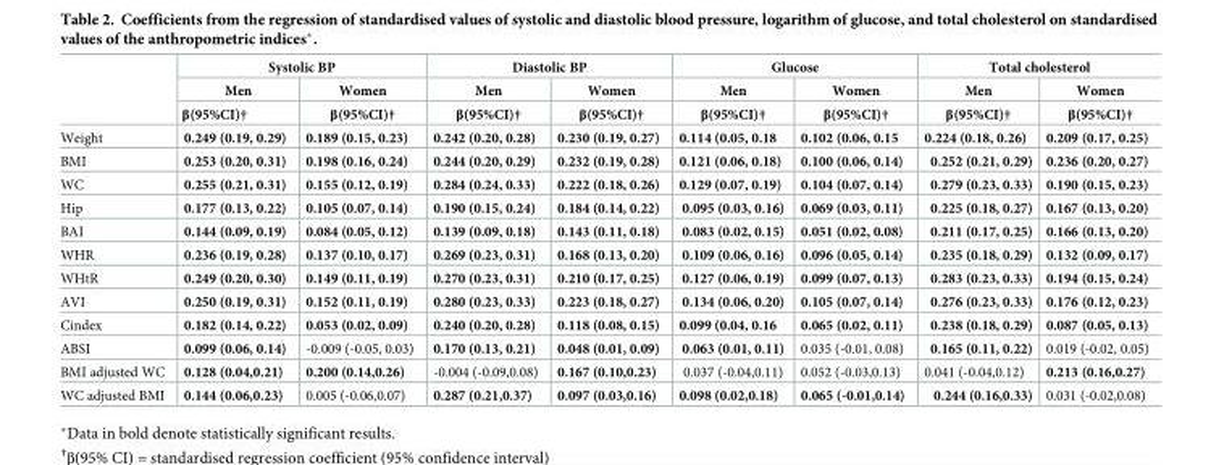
<table><thead><tr><td rowspan="3"></td><td colspan="2">Systolic BP</td><td colspan="2">Diastolic BP</td><td colspan="2">Glucose</td><td colspan="2">Total cholesterol</td></tr><tr><td rowspan="2">Men β(95%CI)†</td><td rowspan="2">Women β(95%CI)†</td><td rowspan="2">Men β(95%CI)†</td><td rowspan="2">Women β(95%CI)†</td><td rowspan="2">Men β(95%CI)†</td><td rowspan="2">Women β(95%CI)†</td><td rowspan="2">Men β(95%CI)†</td><td rowspan="2">Women β(95%CI)†</td></tr><tr></tr></thead><tbody><tr><td>Weight</td><td>0.249 (0.19, 0.29)</td><td>0.189 (0.15, 0.23)</td><td>0.242 (0.20, 0.28)</td><td>0.230 (0.19, 0.27)</td><td>0.114 (0.05, 0.18</td><td>0.102 (0.06, 0.15</td><td>0.224 (0.18, 0.26)</td><td>0.209 (0.17, 0.25)</td></tr><tr><td>BMI</td><td>0.253 (0.20, 0.31)</td><td>0.198 (0.16, 0.24)</td><td>0.244 (0.20, 0.29)</td><td>0.232 (0.19, 0.28)</td><td>0.121 (0.06, 0.18)</td><td>0.100 (0.06, 0.14)</td><td>0.252 (0.21, 0.29)</td><td>0.236 (0.20, 0.27)</td></tr><tr><td>WC</td><td>0.255 (0.21, 0.31)</td><td>0.155 (0.12, 0.19)</td><td>0.284 (0.24, 0.33)</td><td>0.222 (0.18, 0.26)</td><td>0.129 (0.07, 0.19)</td><td>0.104 (0.07, 0.14)</td><td>0.279 (0.23, 0.33)</td><td>0.190 (0.15, 0.23)</td></tr><tr><td>Hip</td><td>0.177 (0.13, 0.22)</td><td>0.105 (0.07, 0.14)</td><td>0.190 (0.15, 0.24)</td><td>0.184 (0.14, 0.22)</td><td>0.095 (0.03, 0.16)</td><td>0.069 (0.03, 0.11)</td><td>0.225 (0.18, 0.27)</td><td>0.167 (0.13, 0.20)</td></tr><tr><td>BAI</td><td>0.144 (0.09, 0.19)</td><td>0.084 (0.05, 0.12)</td><td>0.139 (0.09, 0.18)</td><td>0.143 (0.11, 0.18)</td><td>0.083 (0.02, 0.15)</td><td>0.051 (0.02, 0.08)</td><td>0.211 (0.17, 0.25)</td><td>0.166 (0.13, 0.20)</td></tr><tr><td>WHR</td><td>0.236 (0.19, 0.28)</td><td>0.137 (0.10, 0.17)</td><td>0.269 (0.23, 0.31)</td><td>0.168 (0.13, 0.20)</td><td>0.109 (0.06, 0.16)</td><td>0.096 (0.05, 0.14)</td><td>0.235 (0.18, 0.29)</td><td>0.132 (0.09, 0.17)</td></tr><tr><td>WHtR</td><td>0.249 (0.20, 0.30)</td><td>0.149 (0.11, 0.19)</td><td>0.270 (0.23, 0.31)</td><td>0.210 (0.17, 0.25)</td><td>0.127 (0.06, 0.19)</td><td>0.099 (0.07, 0.13)</td><td>0.283 (0.23, 0.33)</td><td>0.194 (0.15, 0.24)</td></tr><tr><td>AVI</td><td>0.250 (0.19, 0.31)</td><td>0.152 (0.11, 0.19)</td><td>0.280 (0.23, 0.33)</td><td>0.223 (0.18, 0.27)</td><td>0.134 (0.06, 0.20)</td><td>0.105 (0.07, 0.14)</td><td>0.276 (0.23, 0.33)</td><td>0.176 (0.12, 0.23)</td></tr><tr><td>Cindex</td><td>0.182 (0.14, 0.22)</td><td>0.053 (0.02, 0.09)</td><td>0.240 (0.20, 0.28)</td><td>0.118 (0.08, 0.15)</td><td>0.099 (0.04, 0.16</td><td>0.065 (0.02, 0.11)</td><td>0.238 (0.18, 0.29)</td><td>0.087 (0.05, 0.13)</td></tr><tr><td>ABSI</td><td>0.099 (0.06, 0.14)</td><td>-0.009 (-0.05, 0.03)</td><td>0.170 (0.13, 0.21)</td><td>0.048 (0.01, 0.09)</td><td>0.063 (0.01, 0.11)</td><td>0.035 (-0.01, 0.08)</td><td>0.165 (0.11, 0.22)</td><td>0.019 (-0.02, 0.05)</td></tr><tr><td>BMI adjusted WC</td><td>0.128 (0.04,0.21)</td><td>0.200 (0.14,0.26)</td><td>-0.004 (-0.09,0.08)</td><td>0.167 (0.10,0.23)</td><td>0.037 (-0.04,0.11)</td><td>0.052 (-0.03,0.13)</td><td>0.041 (-0.04,0.12)</td><td>0.213 (0.16,0.27)</td></tr><tr><td>WC adjusted BMI</td><td>0.144 (0.06,0.23)</td><td>0.005 (-0.06,0.07)</td><td>0.287 (0.21,0.37)</td><td>0.097 (0.03,0.16)</td><td>0.098 (0.02,0.18)</td><td>0.065 (-0.01,0.14)</td><td>0.244 (0.16,0.33)</td><td>0.031 (-0.02,0.08)</td></tr></tbody></table>